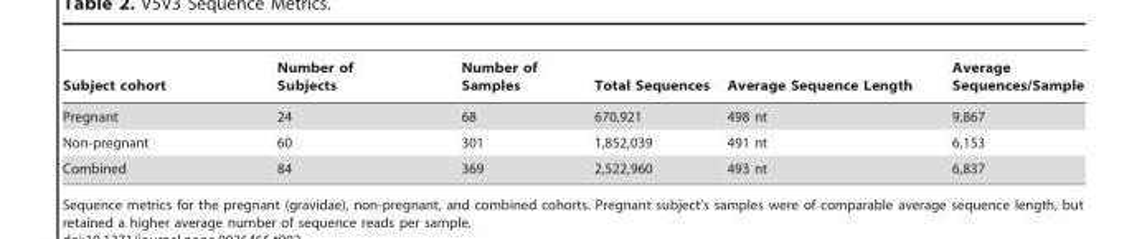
<table><thead><tr><td>Subject cohort</td><td>Number of Subjects</td><td>Number of Samples</td><td>Total Sequences</td><td>Average Sequence Length</td><td>Average Sequences/Sample</td></tr></thead><tbody><tr><td>Pregnant</td><td>24</td><td>68</td><td>670,921</td><td>498 nt</td><td>9,867</td></tr><tr><td>Non-pregnant</td><td>60</td><td>301</td><td>1,852,039</td><td>491 nt</td><td>6,153</td></tr><tr><td>Combined</td><td>84</td><td>369</td><td>2,522,960</td><td>493 nt</td><td>6,837</td></tr></tbody></table>